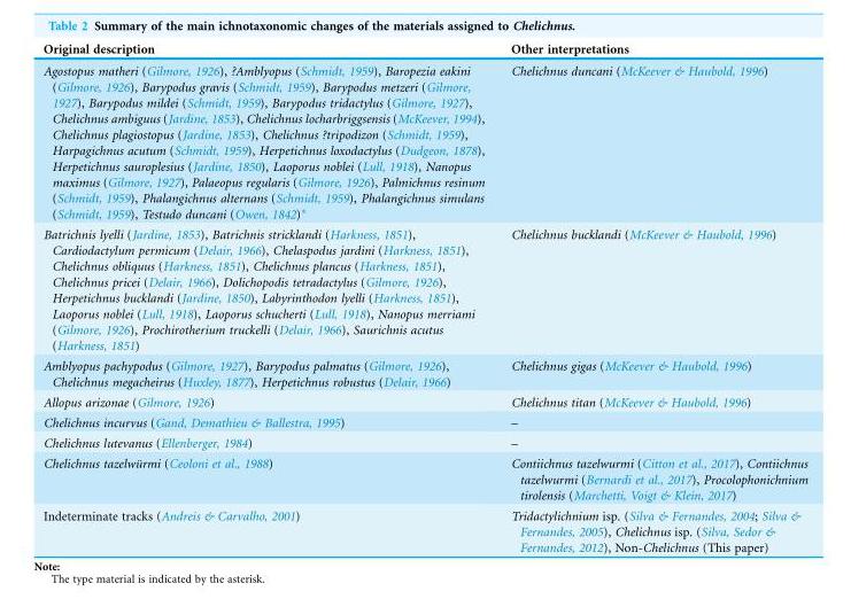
<table><thead><tr><td>Original description</td><td>Other interpretations</td></tr></thead><tbody><tr><td>Agostopus matheri (Gilmore, 1926), ?Amblyopus (Schmidt, 1959), Baropezia eakini (Gilmore, 1926), Barypodus gravis (Schmidt, 1959), Barypodus metzeri (Gilmore, 1927), Barypodus mildei (Schmidt, 1959), Barypodus tridactylus (Gilmore, 1927), Chelichnus ambiguus (Jardine, 1853), Chelichnus locharbriggsensis (McKeever, 1994), Chelichnus plagiostopus (Jardine, 1853), Chelichnus ?tripodizon (Schmidt, 1959), Harpagichnus acutum (Schmidt, 1959), Herpetichnus loxodactylus (Dudgeon, 1878), Herpetichnus sauroplesius (Jardine, 1850), Laoporus noblei (Lull, 1918), Nanopus maximus (Gilmore, 1927), Palaeopus regularis (Gilmore, 1926), Palmichnus resinum (Schmidt, 1959), Phalangichnus alternans (Schmidt, 1959), Phalangichnus simulans (Schmidt, 1959), Testudo duncani (Owen, 1842)*</td><td>Chelichnus duncani (McKeever &amp; Haubold, 1996)</td></tr><tr><td>Batrichnis lyelli (Jardine, 1853), Batrichnis stricklandi (Harkness, 1851), Cardiodactylum permicum (Delair, 1966), Chelaspodus jardini (Harkness, 1851), Chelichnus obliquus (Harkness, 1851), Chelichnus plancus (Harkness, 1851), Chelichnus pricei (Delair, 1966), Dolichopodis tetradactylus (Gilmore, 1926), Herpetichnus bucklandi (Jardine, 1850), Labyrinthodon lyelli (Harkness, 1851), Laoporus noblei (Lull, 1918), Laoporus schucherti (Lull, 1918), Nanopus merriami (Gilmore, 1926), Prochirotherium truckelli (Delair, 1966), Saurichnis acutus (Harkness, 1851)</td><td>Chelichnus bucklandi (McKeever &amp; Haubold, 1996)</td></tr><tr><td>Amblyopus pachypodus (Gilmore, 1927), Barypodus palmatus (Gilmore, 1926), Chelichnus megacheirus (Huxley, 1877), Herpetichnus robustus (Delair, 1966)</td><td>Chelichnus gigas (McKeever &amp; Haubold, 1996)</td></tr><tr><td>Allopus arizonae (Gilmore, 1926)</td><td>Chelichnus titan (McKeever &amp; Haubold, 1996)</td></tr><tr><td>Chelichnus incurvus (Gand, Demathieu &amp; Ballestra, 1995)</td><td>–</td></tr><tr><td>Chelichnus lutevanus (Ellenberger, 1984)</td><td>–</td></tr><tr><td>Chelichnus tazelwu¨rmi (Ceoloni et al., 1988)</td><td>Contiichnus tazelwurmi (Citton et al., 2017), Contiichnus tazelwurmi (Bernardi et al., 2017), Procolophonichnium tirolensis (Marchetti, Voigt &amp; Klein, 2017)</td></tr><tr><td>Indeterminate tracks (Andreis &amp; Carvalho, 2001)</td><td>Tridactylichnium isp. (Silva &amp; Fernandes, 2004; Silva &amp; Fernandes, 2005), Chelichnus isp. (Silva, Sedor &amp; Fernandes, 2012), Non-Chelichnus (This paper)</td></tr></tbody></table>